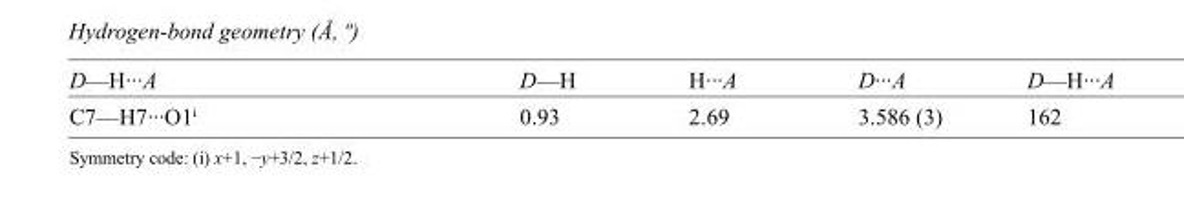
<table><tbody><tr><td>D—H···A</td><td>D—H</td><td>H···A</td><td>D···A</td><td>D—H···A</td></tr><tr><td>C7—H7···O1<sup>i</sup></td><td>0.93</td><td>2.69</td><td>3.586 (3)</td><td>162</td></tr></tbody></table>